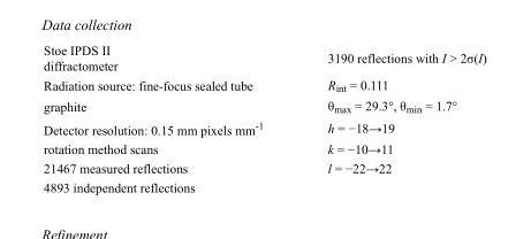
<table><tbody><tr><td>Stoe IPDS II diffractometer</td><td>3190 reflections with I &gt; 2σ(I)</td></tr><tr><td>Radiation source: fine-focus sealed tube</td><td>R<sub>int</sub> = 0.111</td></tr><tr><td>graphite</td><td>θ<sub>max</sub> = 29.3°, θ<sub>min</sub> = 1.7°</td></tr><tr><td>Detector resolution: 0.15 mm pixels mm<sup>-1</sup></td><td>h = −18→19</td></tr><tr><td>rotation method scans</td><td>k = −10→11</td></tr><tr><td>21467 measured reflections</td><td>l = −22→22</td></tr><tr><td>4893 independent reflections</td><td></td></tr></tbody></table>